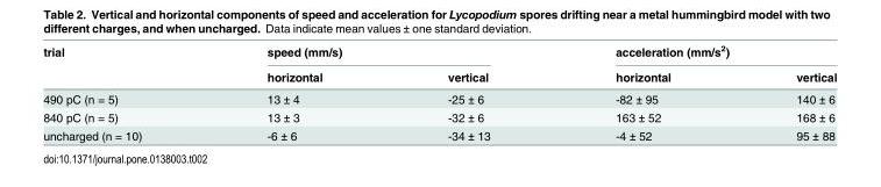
<table><thead><tr><td rowspan="2">trial</td><td colspan="2">speed (mm/s)</td><td colspan="2">acceleration (mm/s<sup>2</sup>)</td></tr><tr><td>horizontal</td><td>vertical</td><td>horizontal</td><td>vertical</td></tr></thead><tbody><tr><td>490 pC (n = 5)</td><td>13 ± 4</td><td>-25 ± 6</td><td>-82 ± 95</td><td>140 ± 6</td></tr><tr><td>840 pC (n = 5)</td><td>13 ± 3</td><td>-32 ± 6</td><td>163 ± 52</td><td>168 ± 6</td></tr><tr><td>uncharged (n = 10)</td><td>-6 ± 6</td><td>-34 ± 13</td><td>-4 ± 52</td><td>95 ± 88</td></tr></tbody></table>